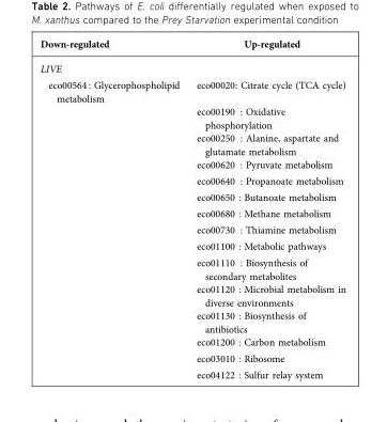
<table><thead><tr><td>Down-regulated</td><td>Up-regulated</td></tr></thead><tbody><tr><td colspan="2">LIVE</td></tr><tr><td rowspan="15">eco00564 : Glycerophospholipid metabolism</td><td>eco00020: Citrate cycle (TCA cycle)</td></tr><tr><td>eco00190 : Oxidative phosphorylation</td></tr><tr><td>eco00250 : Alanine, aspartate and glutamate metabolism</td></tr><tr><td>eco00620 : Pyruvate metabolism</td></tr><tr><td>eco00640 : Propanoate metabolism</td></tr><tr><td>eco00650 : Butanoate metabolism</td></tr><tr><td>eco00680 : Methane metabolism</td></tr><tr><td>eco00730 : Thiamine metabolism</td></tr><tr><td>eco01100 : Metabolic pathways</td></tr><tr><td>eco01110 : Biosynthesis of secondary metabolites</td></tr><tr><td>eco01120 : Microbial metabolism in diverse environments</td></tr><tr><td>eco01130 : Biosynthesis of antibiotics</td></tr><tr><td>eco01200 : Carbon metabolism</td></tr><tr><td>eco03010 : Ribosome</td></tr><tr><td>eco04122 : Sulfur relay system</td></tr></tbody></table>